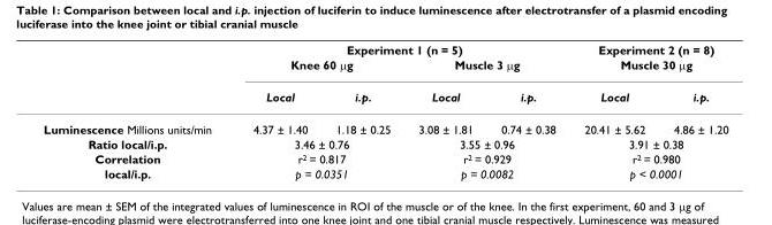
<table><thead><tr><td rowspan="3"></td><td colspan="4">Experiment 1 (n = 5)</td><td rowspan="2" colspan="2">Experiment 2 (n = 8) Muscle 30 µg</td></tr><tr><td colspan="2">Knee 60 µg</td><td colspan="2">Muscle 3 µg</td></tr><tr><td>Local</td><td>i.p.</td><td>Local</td><td>i.p.</td><td>Local</td><td>i.p.</td></tr></thead><tbody><tr><td>Luminescence Millions units/min</td><td>4.37 ± 1.40</td><td>1.18 ± 0.25</td><td>3.08 ± 1.81</td><td>0.74 ± 0.38</td><td>20.41 ± 5.62</td><td>4.86 ± 1.20</td></tr><tr><td>Ratio local/i.p.</td><td colspan="2">3.46 ± 0.76</td><td colspan="2">3.55 ± 0.96</td><td colspan="2">3.91 ± 0.38</td></tr><tr><td>Correlation</td><td colspan="2">r2 = 0.817</td><td colspan="2">r2 = 0.929</td><td colspan="2">r2 = 0.980</td></tr><tr><td>local/i.p.</td><td colspan="2">p = 0.0351</td><td colspan="2">p = 0.0082</td><td colspan="2">p &lt; 0.0001</td></tr></tbody></table>